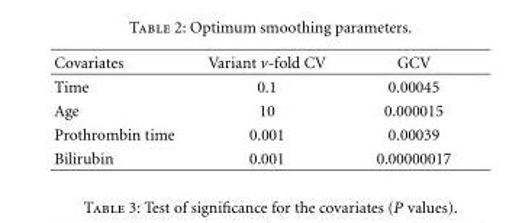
<table><thead><tr><td>Covariates</td><td>Variant v-fold CV</td><td>GCV</td></tr></thead><tbody><tr><td>Time</td><td>0.1</td><td>0.00045</td></tr><tr><td>Age</td><td>10</td><td>0.000015</td></tr><tr><td>Prothrombin time</td><td>0.001</td><td>0.00039</td></tr><tr><td>Bilirubin</td><td>0.001</td><td>0.00000017</td></tr></tbody></table>